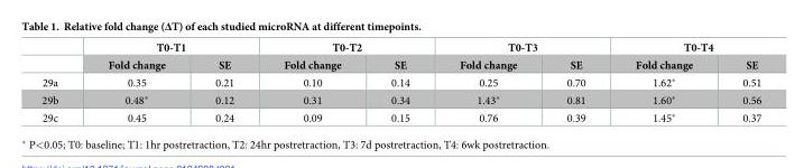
<table><thead><tr><td rowspan="2"></td><td colspan="2">T0-T1</td><td colspan="2">T0-T2</td><td colspan="2">T0-T3</td><td colspan="2">T0-T4</td></tr><tr><td>Fold change</td><td>SE</td><td>Fold change</td><td>SE</td><td>Fold change</td><td>SE</td><td>Fold change</td><td>SE</td></tr></thead><tbody><tr><td>29a</td><td>0.35</td><td>0.21</td><td>0.10</td><td>0.14</td><td>0.25</td><td>0.70</td><td>1.62*</td><td>0.51</td></tr><tr><td>29b</td><td>0.48*</td><td>0.12</td><td>0.31</td><td>0.34</td><td>1.43*</td><td>0.81</td><td>1.60*</td><td>0.56</td></tr><tr><td>29c</td><td>0.45</td><td>0.24</td><td>0.09</td><td>0.15</td><td>0.76</td><td>0.39</td><td>1.45*</td><td>0.37</td></tr></tbody></table>